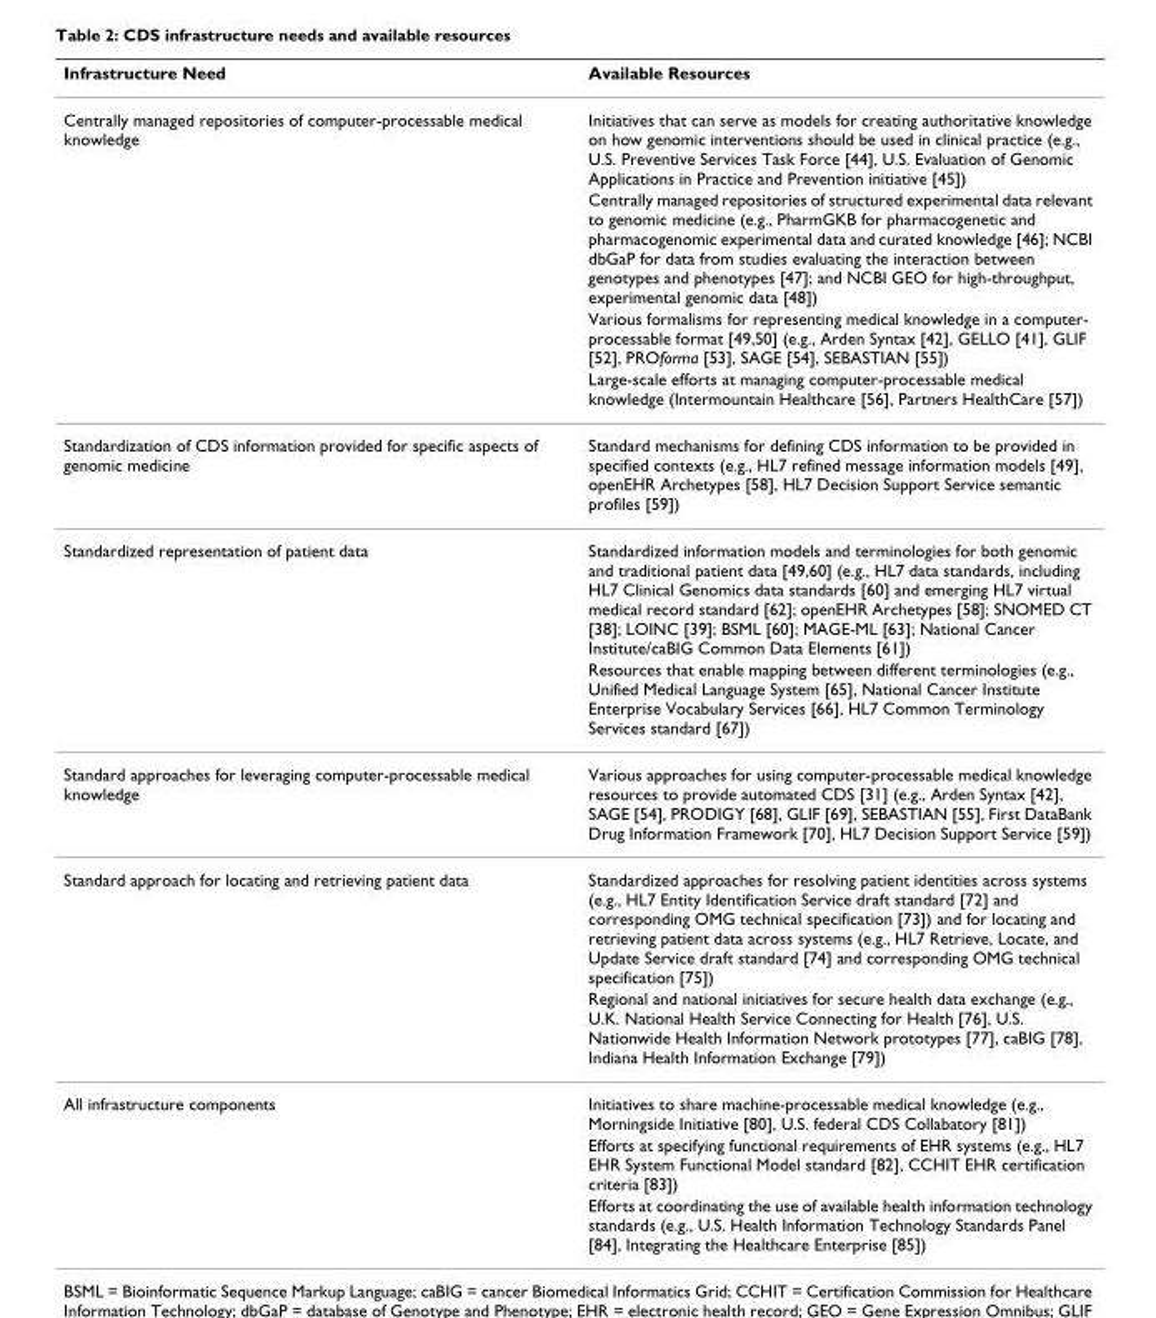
<table><thead><tr><td>Infrastructure Need</td><td>Available Resources</td></tr></thead><tbody><tr><td rowspan="4">Centrally managed repositories of computer-processable medical knowledge</td><td>Initiatives that can serve as models for creating authoritative knowledge on how genomic interventions should be used in clinical practice (e.g., U.S. Preventive Services Task Force [44], U.S. Evaluation of Genomic Applications in Practice and Prevention initiative [45])</td></tr><tr><td>Centrally managed repositories of structured experimental data relevant to genomic medicine (e.g., PharmGKB for pharmacogenetic and pharmacogenomic experimental data and curated knowledge [46]; NCBI dbGaP for data from studies evaluating the interaction between genotypes and phenotypes [47]; and NCBI GEO for high-throughput, experimental genomic data [48])</td></tr><tr><td>Various formalisms for representing medical knowledge in a computer- processable format [49,50] (e.g., Arden Syntax [42], GELLO [41], GLIF [52], PROforma [53], SAGE [54], SEBASTIAN [55])</td></tr><tr><td>Large-scale efforts at managing computer-processable medical knowledge (Intermountain Healthcare [56], Partners HealthCare [57])</td></tr><tr><td>Standardization of CDS information provided for specific aspects of genomic medicine</td><td>Standard mechanisms for defining CDS information to be provided in specified contexts (e.g., HL7 refined message information models [49], openEHR Archetypes [58], HL7 Decision Support Service semantic profiles [59])</td></tr><tr><td rowspan="2">Standardized representation of patient data</td><td>Standardized information models and terminologies for both genomic and traditional patient data [49,60] (e.g., HL7 data standards, including HL7 Clinical Genomics data standards [60] and emerging HL7 virtual medical record standard [62]; openEHR Archetypes [58]; SNOMED CT [38]; LOINC [39]; BSML [60]; MAGE-ML [63]; National Cancer Institute/caBIG Common Data Elements [61])</td></tr><tr><td>Resources that enable mapping between different terminologies (e.g., Unified Medical Language System [65], National Cancer Institute Enterprise Vocabulary Services [66], HL7 Common Terminology Services standard [67])</td></tr><tr><td>Standard approaches for leveraging computer-processable medical knowledge</td><td>Various approaches for using computer-processable medical knowledge resources to provide automated CDS [31] (e.g., Arden Syntax [42], SAGE [54], PRODIGY [68], GLIF [69], SEBASTIAN [55], First DataBank Drug Information Framework [70], HL7 Decision Support Service [59])</td></tr><tr><td rowspan="2">Standard approach for locating and retrieving patient data</td><td>Standardized approaches for resolving patient identities across systems (e.g., HL7 Entity Identification Service draft standard [72] and corresponding OMG technical specification [73]) and for locating and retrieving patient data across systems (e.g., HL7 Retrieve, Locate, and Update Service draft standard [74] and corresponding OMG technical specification [75])</td></tr><tr><td>Regional and national initiatives for secure health data exchange (e.g., U.K. National Health Service Connecting for Health [76], U.S. Nationwide Health Information Network prototypes [77], caBIG [78], Indiana Health Information Exchange [79])</td></tr><tr><td rowspan="3">All infrastructure components</td><td>Initiatives to share machine-processable medical knowledge (e.g., Morningside Initiative [80], U.S. federal CDS Collabatory [81])</td></tr><tr><td>Efforts at specifying functional requirements of EHR systems (e.g., HL7 EHR System Functional Model standard [82], CCHIT EHR certification criteria [83])</td></tr><tr><td>Efforts at coordinating the use of available health information technology standards (e.g., U.S. Health Information Technology Standards Panel [84], Integrating the Healthcare Enterprise [85])</td></tr></tbody></table>